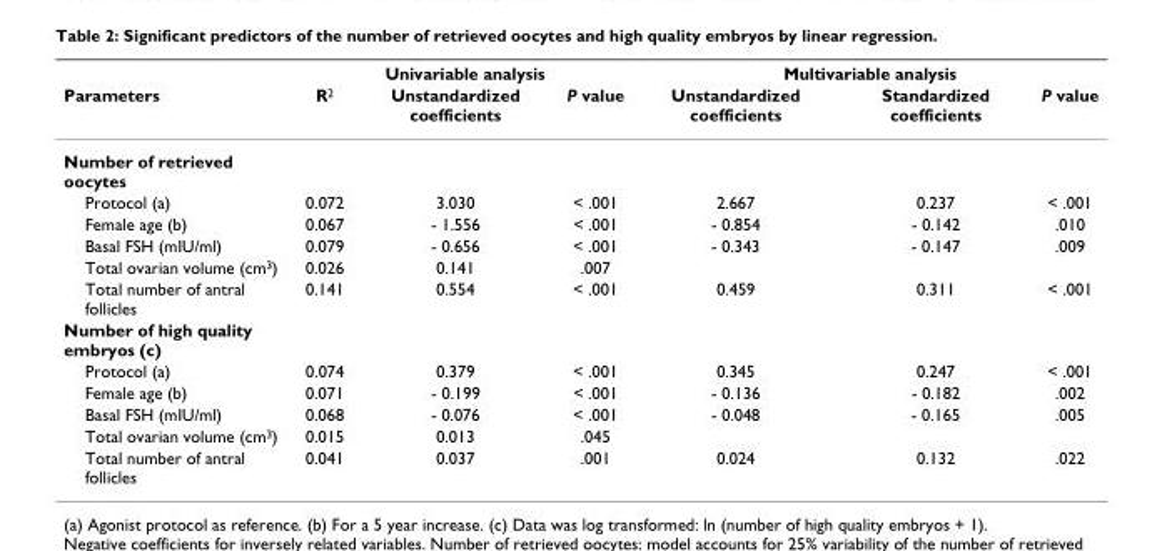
<table><thead><tr><td rowspan="2">Parameters</td><td colspan="3">Univariable analysis</td><td colspan="3">Multivariable analysis</td></tr><tr><td>R<sup>2</sup></td><td>Unstandardized coefficients</td><td>P value</td><td>Unstandardized coefficients</td><td>Standardized coefficients</td><td>P value</td></tr></thead><tbody><tr><td colspan="7">Number of retrieved oocytes</td></tr><tr><td>Protocol (a)</td><td>0.072</td><td>3.030</td><td>&lt; .001</td><td>2.667</td><td>0.237</td><td>&lt; .001</td></tr><tr><td>Female age (b)</td><td>0.067</td><td>- 1.556</td><td>&lt; .001</td><td>- 0.854</td><td>- 0.142</td><td>.010</td></tr><tr><td>Basal FSH (mIU/ml)</td><td>0.079</td><td>- 0.656</td><td>&lt; .001</td><td>- 0.343</td><td>- 0.147</td><td>.009</td></tr><tr><td>Total ovarian volume (cm<sup>3</sup>)</td><td>0.026</td><td>0.141</td><td>.007</td><td></td><td></td><td></td></tr><tr><td>Total number of antral follicles</td><td>0.141</td><td>0.554</td><td>&lt; .001</td><td>0.459</td><td>0.311</td><td>&lt; .001</td></tr><tr><td colspan="7">Number of high quality embryos (c)</td></tr><tr><td>Protocol (a)</td><td>0.074</td><td>0.379</td><td>&lt; .001</td><td>0.345</td><td>0.247</td><td>&lt; .001</td></tr><tr><td>Female age (b)</td><td>0.071</td><td>- 0.199</td><td>&lt; .001</td><td>- 0.136</td><td>- 0.182</td><td>.002</td></tr><tr><td>Basal FSH (mIU/ml)</td><td>0.068</td><td>- 0.076</td><td>&lt; .001</td><td>- 0.048</td><td>- 0.165</td><td>.005</td></tr><tr><td>Total ovarian volume (cm<sup>3</sup>)</td><td>0.015</td><td>0.013</td><td>.045</td><td></td><td></td><td></td></tr><tr><td>Total number of antral follicles</td><td>0.041</td><td>0.037</td><td>.001</td><td>0.024</td><td>0.132</td><td>.022</td></tr></tbody></table>